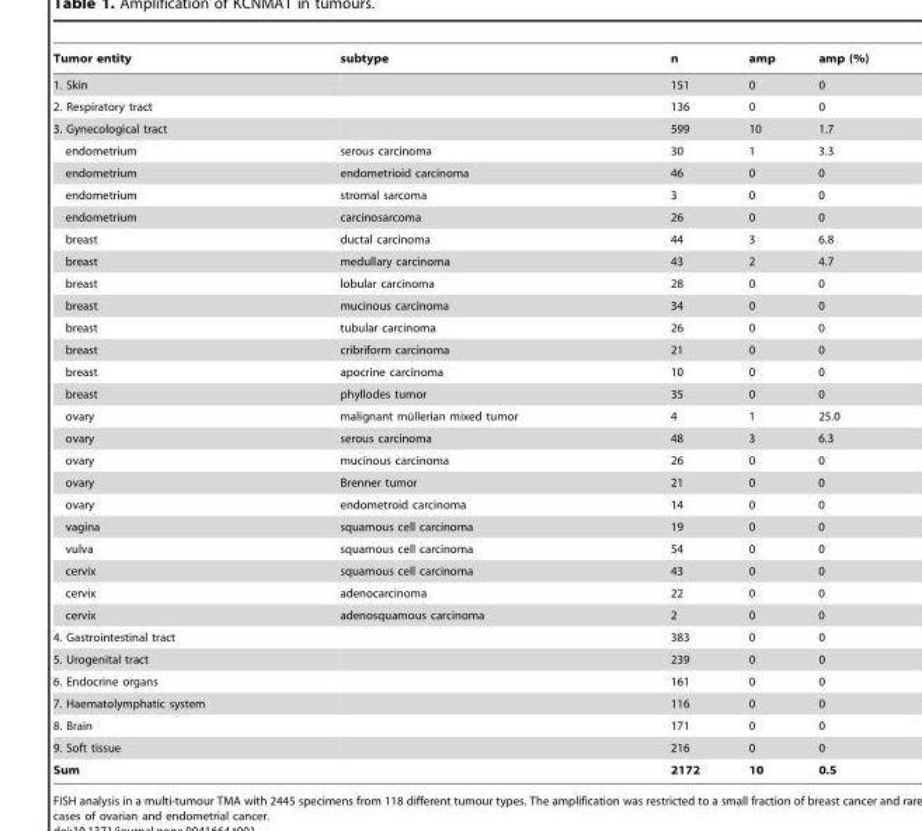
<table><thead><tr><td>Tumor entity</td><td>subtype</td><td>n</td><td>amp</td><td>amp (%)</td></tr></thead><tbody><tr><td>1. Skin</td><td></td><td>151</td><td>0</td><td>0</td></tr><tr><td>2. Respiratory tract</td><td></td><td>136</td><td>0</td><td>0</td></tr><tr><td>3. Gynecological tract</td><td></td><td>599</td><td>10</td><td>1.7</td></tr><tr><td>endometrium</td><td>serous carcinoma</td><td>30</td><td>1</td><td>3.3</td></tr><tr><td>endometrium</td><td>endometrioid carcinoma</td><td>46</td><td>0</td><td>0</td></tr><tr><td>endometrium</td><td>stromal sarcoma</td><td>3</td><td>0</td><td>0</td></tr><tr><td>endometrium</td><td>carcinosarcoma</td><td>26</td><td>0</td><td>0</td></tr><tr><td>breast</td><td>ductal carcinoma</td><td>44</td><td>3</td><td>6.8</td></tr><tr><td>breast</td><td>medullary carcinoma</td><td>43</td><td>2</td><td>4.7</td></tr><tr><td>breast</td><td>lobular carcinoma</td><td>28</td><td>0</td><td>0</td></tr><tr><td>breast</td><td>mucinous carcinoma</td><td>34</td><td>0</td><td>0</td></tr><tr><td>breast</td><td>tubular carcinoma</td><td>26</td><td>0</td><td>0</td></tr><tr><td>breast</td><td>cribriform carcinoma</td><td>21</td><td>0</td><td>0</td></tr><tr><td>breast</td><td>apocrine carcinoma</td><td>10</td><td>0</td><td>0</td></tr><tr><td>breast</td><td>phyllodes tumor</td><td>35</td><td>0</td><td>0</td></tr><tr><td>ovary</td><td>malignant mu¨llerian mixed tumor</td><td>4</td><td>1</td><td>25.0</td></tr><tr><td>ovary</td><td>serous carcinoma</td><td>48</td><td>3</td><td>6.3</td></tr><tr><td>ovary</td><td>mucinous carcinoma</td><td>26</td><td>0</td><td>0</td></tr><tr><td>ovary</td><td>Brenner tumor</td><td>21</td><td>0</td><td>0</td></tr><tr><td>ovary</td><td>endometroid carcinoma</td><td>14</td><td>0</td><td>0</td></tr><tr><td>vagina</td><td>squamous cell carcinoma</td><td>19</td><td>0</td><td>0</td></tr><tr><td>vulva</td><td>squamous cell carcinoma</td><td>54</td><td>0</td><td>0</td></tr><tr><td>cervix</td><td>squamous cell carcinoma</td><td>43</td><td>0</td><td>0</td></tr><tr><td>cervix</td><td>adenocarcinoma</td><td>22</td><td>0</td><td>0</td></tr><tr><td>cervix</td><td>adenosquamous carcinoma</td><td>2</td><td>0</td><td>0</td></tr><tr><td>4. Gastrointestinal tract</td><td></td><td>383</td><td>0</td><td>0</td></tr><tr><td>5. Urogenital tract</td><td></td><td>239</td><td>0</td><td>0</td></tr><tr><td>6. Endocrine organs</td><td></td><td>161</td><td>0</td><td>0</td></tr><tr><td>7. Haematolymphatic system</td><td></td><td>116</td><td>0</td><td>0</td></tr><tr><td>8. Brain</td><td></td><td>171</td><td>0</td><td>0</td></tr><tr><td>9. Soft tissue</td><td></td><td>216</td><td>0</td><td>0</td></tr><tr><td>Sum</td><td></td><td>2172</td><td>10</td><td>0.5</td></tr></tbody></table>